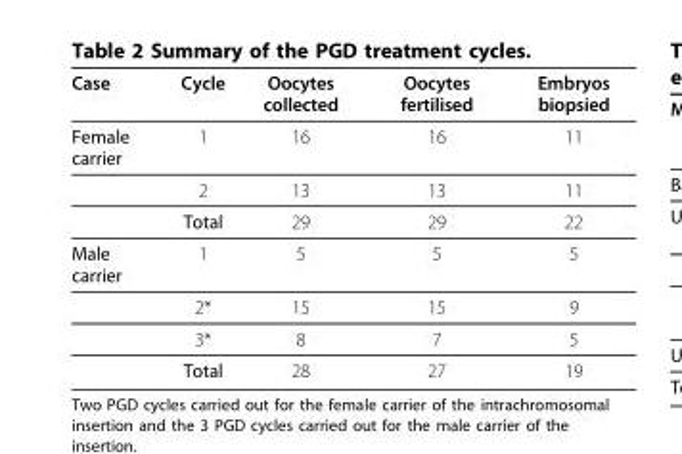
<table><thead><tr><td>Case</td><td>Cycle</td><td>Oocytes collected</td><td>Oocytes fertilised</td><td>Embryos biopsied</td></tr></thead><tbody><tr><td rowspan="3">Female carrier</td><td>1</td><td>16</td><td>16</td><td>11</td></tr><tr><td>2</td><td>13</td><td>13</td><td>11</td></tr><tr><td>Total</td><td>29</td><td>29</td><td>22</td></tr><tr><td rowspan="4">Male carrier</td><td>1</td><td>5</td><td>5</td><td>5</td></tr><tr><td>2*</td><td>15</td><td>15</td><td>9</td></tr><tr><td>3*</td><td>8</td><td>7</td><td>5</td></tr><tr><td>Total</td><td>28</td><td>27</td><td>19</td></tr></tbody></table>